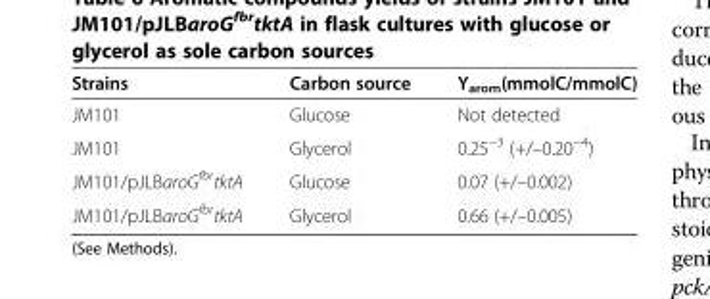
<table><thead><tr><td>Strains</td><td>Carbon source</td><td>Y<sub>arom</sub>(mmolC/mmolC)</td></tr></thead><tbody><tr><td>JM101</td><td>Glucose</td><td>Not detected</td></tr><tr><td>JM101</td><td>Glycerol</td><td>0.25<sup>−3</sup> (+/–0.20<sup>−4</sup>)</td></tr><tr><td>JM101/pJLBaroG<sup>fbr</sup>tktA</td><td>Glucose</td><td>0.07 (+/–0.002)</td></tr><tr><td>JM101/pJLBaroG<sup>fbr</sup>tktA</td><td>Glycerol</td><td>0.66 (+/–0.005)</td></tr></tbody></table>